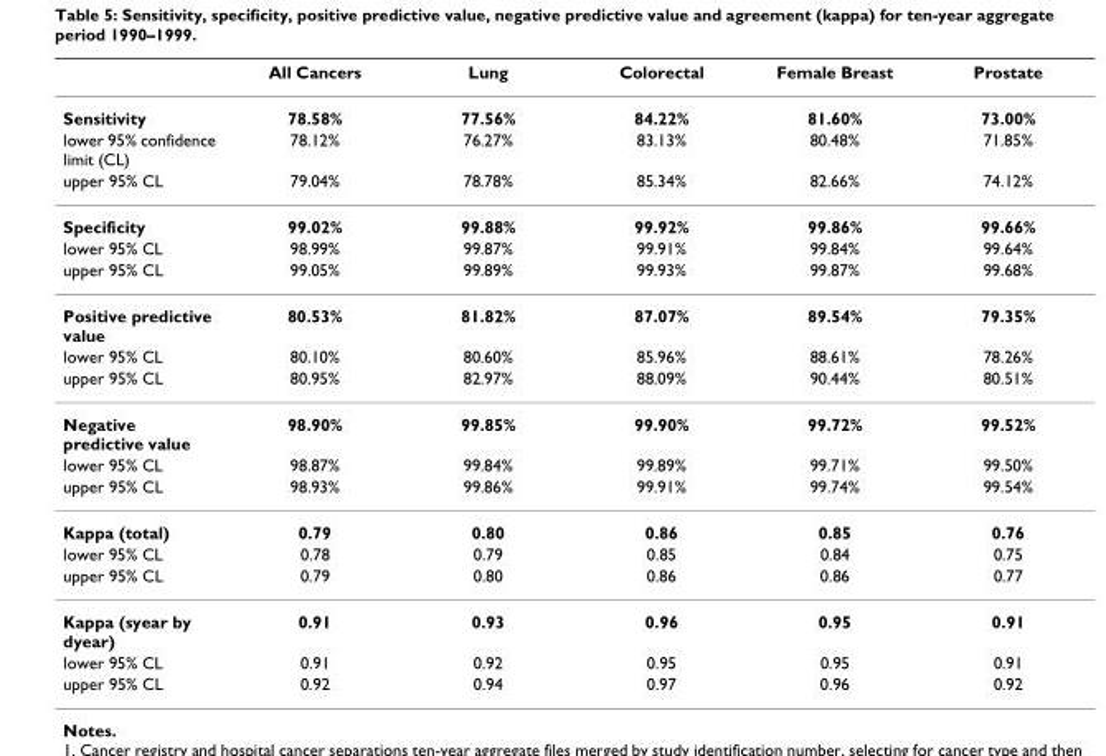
<table><thead><tr><td></td><td>All Cancers</td><td>Lung</td><td>Colorectal</td><td>Female Breast</td><td>Prostate</td></tr></thead><tbody><tr><td>Sensitivity</td><td>78.58%</td><td>77.56%</td><td>84.22%</td><td>81.60%</td><td>73.00%</td></tr><tr><td>lower 95% confidence limit (CL)</td><td>78.12%</td><td>76.27%</td><td>83.13%</td><td>80.48%</td><td>71.85%</td></tr><tr><td>upper 95% CL</td><td>79.04%</td><td>78.78%</td><td>85.34%</td><td>82.66%</td><td>74.12%</td></tr><tr><td>Specificity</td><td>99.02%</td><td>99.88%</td><td>99.92%</td><td>99.86%</td><td>99.66%</td></tr><tr><td>lower 95% CL</td><td>98.99%</td><td>99.87%</td><td>99.91%</td><td>99.84%</td><td>99.64%</td></tr><tr><td>upper 95% CL</td><td>99.05%</td><td>99.89%</td><td>99.93%</td><td>99.87%</td><td>99.68%</td></tr><tr><td>Positive predictive value</td><td>80.53%</td><td>81.82%</td><td>87.07%</td><td>89.54%</td><td>79.35%</td></tr><tr><td>lower 95% CL</td><td>80.10%</td><td>80.60%</td><td>85.96%</td><td>88.61%</td><td>78.26%</td></tr><tr><td>upper 95% CL</td><td>80.95%</td><td>82.97%</td><td>88.09%</td><td>90.44%</td><td>80.51%</td></tr><tr><td>Negative predictive value</td><td>98.90%</td><td>99.85%</td><td>99.90%</td><td>99.72%</td><td>99.52%</td></tr><tr><td>lower 95% CL</td><td>98.87%</td><td>99.84%</td><td>99.89%</td><td>99.71%</td><td>99.50%</td></tr><tr><td>upper 95% CL</td><td>98.93%</td><td>99.86%</td><td>99.91%</td><td>99.74%</td><td>99.54%</td></tr><tr><td>Kappa (total)</td><td>0.79</td><td>0.80</td><td>0.86</td><td>0.85</td><td>0.76</td></tr><tr><td>lower 95% CL</td><td>0.78</td><td>0.79</td><td>0.85</td><td>0.84</td><td>0.75</td></tr><tr><td>upper 95% CL</td><td>0.79</td><td>0.80</td><td>0.86</td><td>0.86</td><td>0.77</td></tr><tr><td>Kappa (syear by dyear)</td><td>0.91</td><td>0.93</td><td>0.96</td><td>0.95</td><td>0.91</td></tr><tr><td>lower 95% CL</td><td>0.91</td><td>0.92</td><td>0.95</td><td>0.95</td><td>0.91</td></tr><tr><td>upper 95% CL</td><td>0.92</td><td>0.94</td><td>0.97</td><td>0.96</td><td>0.92</td></tr></tbody></table>